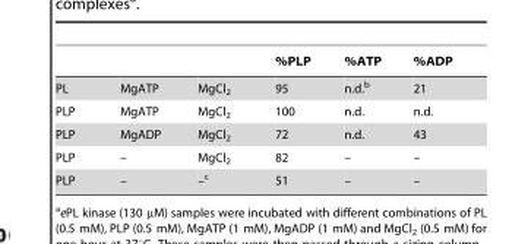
<table><thead><tr><td></td><td></td><td></td><td>%PLP</td><td>%ATP</td><td>%ADP</td></tr></thead><tbody><tr><td>PL</td><td>MgATP</td><td>MgCl<sub>2</sub></td><td>95</td><td>n.d.<sup>b</sup></td><td>21</td></tr><tr><td>PLP</td><td>MgATP</td><td>MgCl<sub>2</sub></td><td>100</td><td>n.d.</td><td>n.d.</td></tr><tr><td>PLP</td><td>MgADP</td><td>MgCl<sub>2</sub></td><td>72</td><td>n.d.</td><td>43</td></tr><tr><td>PLP</td><td>–</td><td>MgCl<sub>2</sub></td><td>82</td><td>–</td><td>–</td></tr><tr><td>PLP</td><td>–</td><td>–c</td><td>51</td><td>–</td><td>–</td></tr></tbody></table>